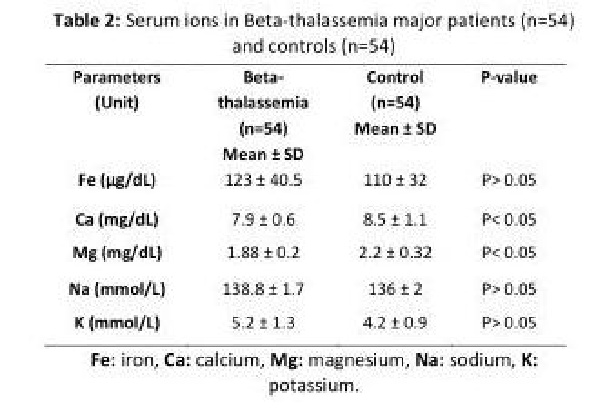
<table><tbody><tr><td>Parameters (Unit)</td><td>Beta- thalassemia (n=54) Mean ± SD</td><td>Control (n=54) Mean ± SD</td><td>P-value</td></tr><tr><td>Fe (µg/dL)</td><td>123 ± 40.5</td><td>110 ± 32</td><td>P&gt; 0.05</td></tr><tr><td>Ca (mg/dL)</td><td>7.9 ± 0.6</td><td>8.5 ± 1.1</td><td>P&lt; 0.05</td></tr><tr><td>Mg (mg/dL)</td><td>1.88 ± 0.2</td><td>2.2 ± 0.32</td><td>P&lt; 0.05</td></tr><tr><td>Na (mmol/L)</td><td>138.8 ± 1.7</td><td>136 ± 2</td><td>P&gt; 0.05</td></tr><tr><td>K (mmol/L)</td><td>5.2 ± 1.3</td><td>4.2 ± 0.9</td><td>P&gt; 0.05</td></tr></tbody></table>